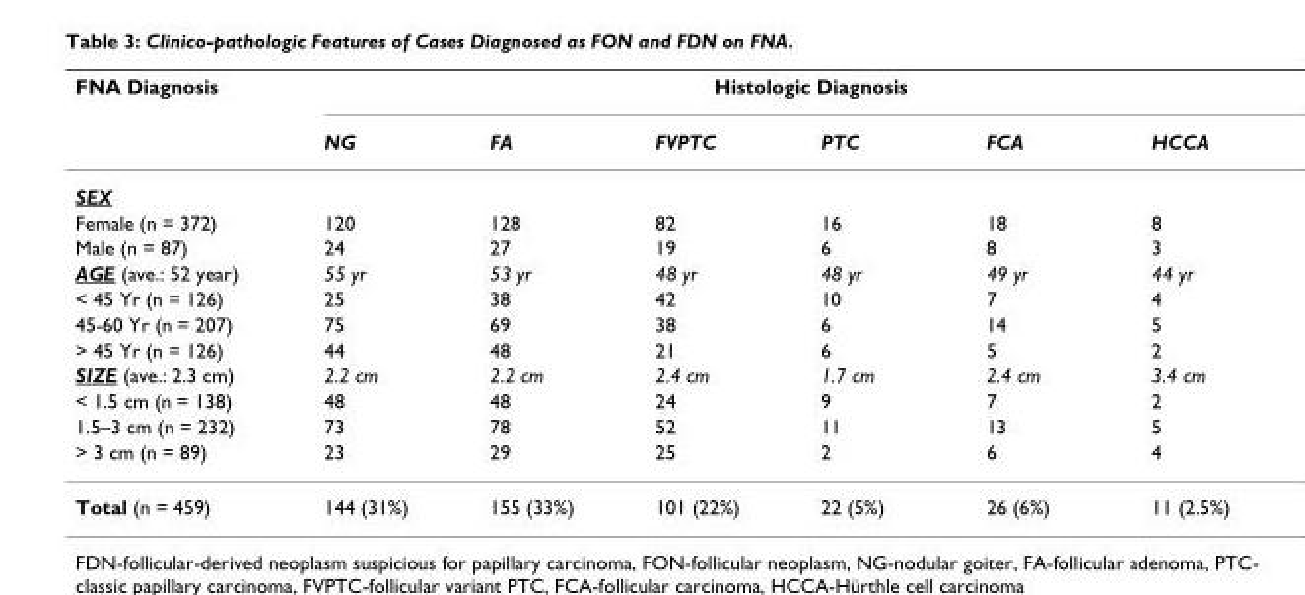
<table><thead><tr><td rowspan="2">FNA Diagnosis</td><td colspan="6">Histologic Diagnosis</td></tr><tr><td>NG</td><td>FA</td><td>FVPTC</td><td>PTC</td><td>FCA</td><td>HCCA</td></tr></thead><tbody><tr><td colspan="7">SEX</td></tr><tr><td>Female (n = 372)</td><td>120</td><td>128</td><td>82</td><td>16</td><td>18</td><td>8</td></tr><tr><td>Male (n = 87)</td><td>24</td><td>27</td><td>19</td><td>6</td><td>8</td><td>3</td></tr><tr><td>AGE (ave.: 52 year)</td><td>55 yr</td><td>53 yr</td><td>48 yr</td><td>48 yr</td><td>49 yr</td><td>44 yr</td></tr><tr><td>&lt; 45 Yr (n = 126)</td><td>25</td><td>38</td><td>42</td><td>10</td><td>7</td><td>4</td></tr><tr><td>45-60 Yr (n = 207)</td><td>75</td><td>69</td><td>38</td><td>6</td><td>14</td><td>5</td></tr><tr><td>&gt; 45 Yr (n = 126)</td><td>44</td><td>48</td><td>21</td><td>6</td><td>5</td><td>2</td></tr><tr><td>SIZE (ave.: 2.3 cm)</td><td>2.2 cm</td><td>2.2 cm</td><td>2.4 cm</td><td>1.7 cm</td><td>2.4 cm</td><td>3.4 cm</td></tr><tr><td>&lt; 1.5 cm (n = 138)</td><td>48</td><td>48</td><td>24</td><td>9</td><td>7</td><td>2</td></tr><tr><td>1.5–3 cm (n = 232)</td><td>73</td><td>78</td><td>52</td><td>11</td><td>13</td><td>5</td></tr><tr><td>&gt; 3 cm (n = 89)</td><td>23</td><td>29</td><td>25</td><td>2</td><td>6</td><td>4</td></tr><tr><td>Total (n = 459)</td><td>144 (31%)</td><td>155 (33%)</td><td>101 (22%)</td><td>22 (5%)</td><td>26 (6%)</td><td>11 (2.5%)</td></tr></tbody></table>